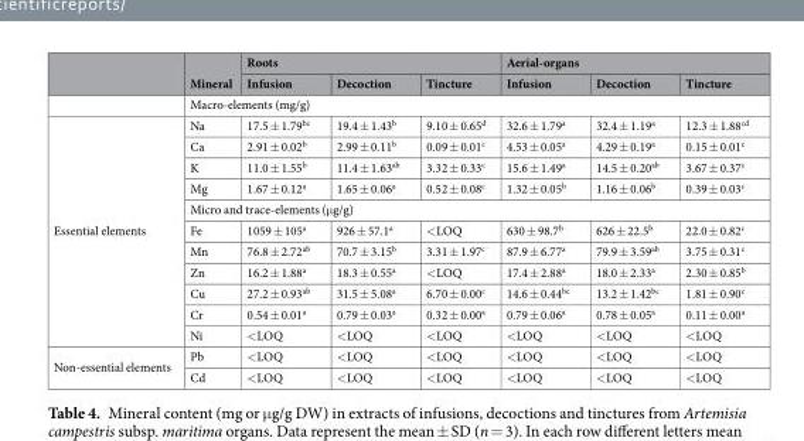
<table><thead><tr><td rowspan="2"></td><td rowspan="2">Mineral</td><td colspan="3">Roots</td><td colspan="3">Aerial-organs</td></tr><tr><td>Infusion</td><td>Decoction</td><td>Tincture</td><td>Infusion</td><td>Decoction</td><td>Tincture</td></tr></thead><tbody><tr><td></td><td colspan="7">Macro-elements (mg/g)</td></tr><tr><td rowspan="11">Essential elements</td><td>Na</td><td>17.5 ± 1.79<sup>bc</sup></td><td>19.4 ± 1.43<sup>b</sup></td><td>9.10 ± 0.65<sup>d</sup></td><td>32.6 ± 1.79<sup>a</sup></td><td>32.4 ± 1.19<sup>a</sup></td><td>12.3 ± 1.88<sup>cd</sup></td></tr><tr><td>Ca</td><td>2.91 ± 0.02<sup>b</sup></td><td>2.99 ± 0.11<sup>b</sup></td><td>0.09 ± 0.01<sup>c</sup></td><td>4.53 ± 0.05<sup>a</sup></td><td>4.29 ± 0.19<sup>a</sup></td><td>0.15 ± 0.01<sup>c</sup></td></tr><tr><td>K</td><td>11.0 ± 1.55<sup>b</sup></td><td>11.4 ± 1.63<sup>ab</sup></td><td>3.32 ± 0.33<sup>c</sup></td><td>15.6 ± 1.49<sup>a</sup></td><td>14.5 ± 0.20<sup>ab</sup></td><td>3.67 ± 0.37<sup>c</sup></td></tr><tr><td>Mg</td><td>1.67 ± 0.12<sup>a</sup></td><td>1.65 ± 0.06<sup>a</sup></td><td>0.52 ± 0.08<sup>c</sup></td><td>1.32 ± 0.05<sup>b</sup></td><td>1.16 ± 0.06<sup>b</sup></td><td>0.39 ± 0.03<sup>c</sup></td></tr><tr><td colspan="7">Micro and trace-elements (μg/g)</td></tr><tr><td>Fe</td><td>1059 ± 105<sup>a</sup></td><td>926 ± 57.1<sup>a</sup></td><td>&lt;LOQ</td><td>630 ± 98.7<sup>b</sup></td><td>626 ± 22.5<sup>b</sup></td><td>22.0 ± 0.82<sup>c</sup></td></tr><tr><td>Mn</td><td>76.8 ± 2.72<sup>ab</sup></td><td>70.7 ± 3.15<sup>b</sup></td><td>3.31 ± 1.97<sup>c</sup></td><td>87.9 ± 6.77<sup>a</sup></td><td>79.9 ± 3.59<sup>ab</sup></td><td>3.75 ± 0.31<sup>c</sup></td></tr><tr><td>Zn</td><td>16.2 ± 1.88<sup>a</sup></td><td>18.3 ± 0.55<sup>a</sup></td><td>&lt;LOQ</td><td>17.4 ± 2.88<sup>a</sup></td><td>18.0 ± 2.33<sup>a</sup></td><td>2.30 ± 0.85<sup>b</sup></td></tr><tr><td>Cu</td><td>27.2 ± 0.93<sup>ab</sup></td><td>31.5 ± 5.08<sup>a</sup></td><td>6.70 ± 0.00<sup>c</sup></td><td>14.6 ± 0.44<sup>bc</sup></td><td>13.2 ± 1.42<sup>bc</sup></td><td>1.81 ± 0.90<sup>c</sup></td></tr><tr><td>Cr</td><td>0.54 ± 0.01<sup>a</sup></td><td>0.79 ± 0.03<sup>a</sup></td><td>0.32 ± 0.00<sup>a</sup></td><td>0.79 ± 0.06<sup>a</sup></td><td>0.78 ± 0.05<sup>a</sup></td><td>0.11 ± 0.00<sup>a</sup></td></tr><tr><td>Ni</td><td>&lt;LOQ</td><td>&lt;LOQ</td><td>&lt;LOQ</td><td>&lt;LOQ</td><td>&lt;LOQ</td><td>&lt;LOQ</td></tr><tr><td rowspan="2">Non-essential elements</td><td>Pb</td><td>&lt;LOQ</td><td>&lt;LOQ</td><td>&lt;LOQ</td><td>&lt;LOQ</td><td>&lt;LOQ</td><td>&lt;LOQ</td></tr><tr><td>Cd</td><td>&lt;LOQ</td><td>&lt;LOQ</td><td>&lt;LOQ</td><td>&lt;LOQ</td><td>&lt;LOQ</td><td>&lt;LOQ</td></tr></tbody></table>